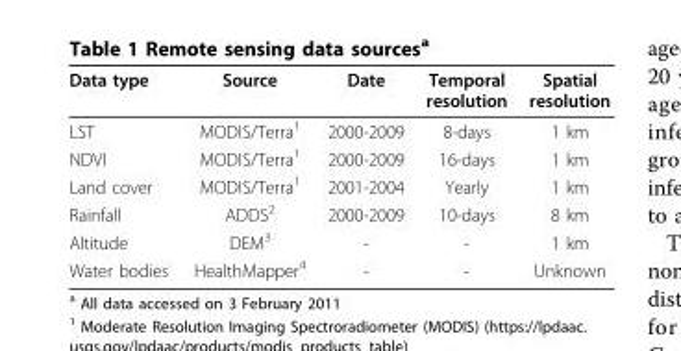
<table><thead><tr><td>Data type</td><td>Source</td><td>Date</td><td>Temporal resolution</td><td>Spatial resolution</td></tr></thead><tbody><tr><td>LST</td><td>MODIS/Terra<sup>1</sup></td><td>2000-2009</td><td>8-days</td><td>1 km</td></tr><tr><td>NDVI</td><td>MODIS/Terra<sup>1</sup></td><td>2000-2009</td><td>16-days</td><td>1 km</td></tr><tr><td>Land cover</td><td>MODIS/Terra<sup>1</sup></td><td>2001-2004</td><td>Yearly</td><td>1 km</td></tr><tr><td>Rainfall</td><td>ADDS<sup>2</sup></td><td>2000-2009</td><td>10-days</td><td>8 km</td></tr><tr><td>Altitude</td><td>DEM<sup>3</sup></td><td>-</td><td>-</td><td>1 km</td></tr><tr><td>Water bodies</td><td>HealthMapper<sup>4</sup></td><td>-</td><td>-</td><td>Unknown</td></tr></tbody></table>